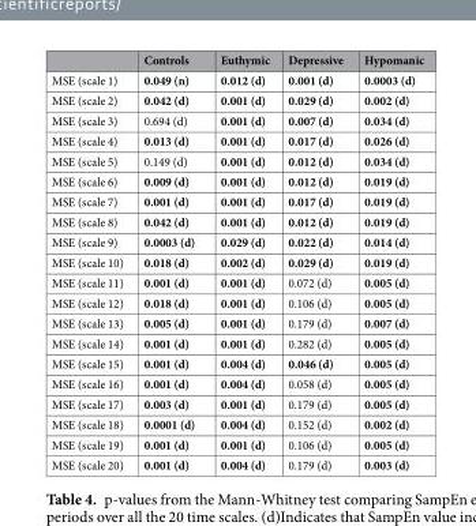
<table><thead><tr><td></td><td>Controls</td><td>Euthymic</td><td>Depressive</td><td>Hypomanic</td></tr></thead><tbody><tr><td>MSE (scale 1)</td><td>0.049 (n)</td><td>0.012 (d)</td><td>0.001 (d)</td><td>0.0003 (d)</td></tr><tr><td>MSE (scale 2)</td><td>0.042 (d)</td><td>0.001 (d)</td><td>0.029 (d)</td><td>0.002 (d)</td></tr><tr><td>MSE (scale 3)</td><td>0.694 (d)</td><td>0.001 (d)</td><td>0.007 (d)</td><td>0.034 (d)</td></tr><tr><td>MSE (scale 4)</td><td>0.013 (d)</td><td>0.001 (d)</td><td>0.017 (d)</td><td>0.026 (d)</td></tr><tr><td>MSE (scale 5)</td><td>0.149 (d)</td><td>0.001 (d)</td><td>0.012 (d)</td><td>0.034 (d)</td></tr><tr><td>MSE (scale 6)</td><td>0.009 (d)</td><td>0.001 (d)</td><td>0.012 (d)</td><td>0.019 (d)</td></tr><tr><td>MSE (scale 7)</td><td>0.001 (d)</td><td>0.001 (d)</td><td>0.017 (d)</td><td>0.019 (d)</td></tr><tr><td>MSE (scale 8)</td><td>0.042 (d)</td><td>0.001 (d)</td><td>0.012 (d)</td><td>0.019 (d)</td></tr><tr><td>MSE (scale 9)</td><td>0.0003 (d)</td><td>0.029 (d)</td><td>0.022 (d)</td><td>0.014 (d)</td></tr><tr><td>MSE (scale 10)</td><td>0.018 (d)</td><td>0.002 (d)</td><td>0.029 (d)</td><td>0.019 (d)</td></tr><tr><td>MSE (scale 11)</td><td>0.001 (d)</td><td>0.001 (d)</td><td>0.072 (d)</td><td>0.005 (d)</td></tr><tr><td>MSE (scale 12)</td><td>0.018 (d)</td><td>0.001 (d)</td><td>0.106 (d)</td><td>0.005 (d)</td></tr><tr><td>MSE (scale 13)</td><td>0.005 (d)</td><td>0.001 (d)</td><td>0.179 (d)</td><td>0.007 (d)</td></tr><tr><td>MSE (scale 14)</td><td>0.001 (d)</td><td>0.001 (d)</td><td>0.282 (d)</td><td>0.005 (d)</td></tr><tr><td>MSE (scale 15)</td><td>0.001 (d)</td><td>0.004 (d)</td><td>0.046 (d)</td><td>0.005 (d)</td></tr><tr><td>MSE (scale 16)</td><td>0.001 (d)</td><td>0.004 (d)</td><td>0.058 (d)</td><td>0.005 (d)</td></tr><tr><td>MSE (scale 17)</td><td>0.003 (d)</td><td>0.001 (d)</td><td>0.179 (d)</td><td>0.005 (d)</td></tr><tr><td>MSE (scale 18)</td><td>0.0001 (d)</td><td>0.004 (d)</td><td>0.152 (d)</td><td>0.002 (d)</td></tr><tr><td>MSE (scale 19)</td><td>0.001 (d)</td><td>0.001 (d)</td><td>0.106 (d)</td><td>0.005 (d)</td></tr><tr><td>MSE (scale 20)</td><td>0.001 (d)</td><td>0.004 (d)</td><td>0.179 (d)</td><td>0.003 (d)</td></tr></tbody></table>